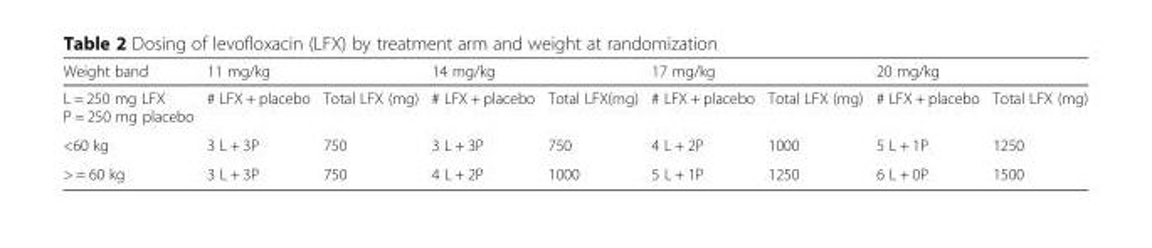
<table><thead><tr><td rowspan="2">Weight band L = 250 mg LFX P = 250 mg placebo</td><td colspan="2">11 mg/kg</td><td colspan="2">14 mg/kg</td><td colspan="2">17 mg/kg</td><td colspan="2">20 mg/kg</td></tr><tr><td># LFX + placebo</td><td>Total LFX (mg)</td><td># LFX + placebo</td><td>Total LFX(mg)</td><td># LFX + placebo</td><td>Total LFX (mg)</td><td># LFX + placebo</td><td>Total LFX (mg)</td></tr></thead><tbody><tr><td>&lt;60 kg</td><td>3 L + 3P</td><td>750</td><td>3 L + 3P</td><td>750</td><td>4 L + 2P</td><td>1000</td><td>5 L + 1P</td><td>1250</td></tr><tr><td>&gt; = 60 kg</td><td>3 L + 3P</td><td>750</td><td>4 L + 2P</td><td>1000</td><td>5 L + 1P</td><td>1250</td><td>6 L + 0P</td><td>1500</td></tr></tbody></table>